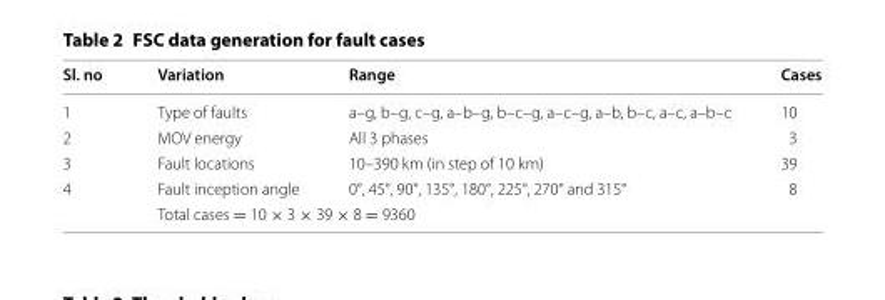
<table><thead><tr><td>Sl. no</td><td>Variation</td><td>Range</td><td>Cases</td></tr></thead><tbody><tr><td>1</td><td>Type of faults</td><td>a–g, b–g, c–g, a–b–g, b–c–g, a–c–g, a–b, b–c, a–c, a–b–c</td><td>10</td></tr><tr><td>2</td><td>MOV energy</td><td>All 3 phases</td><td>3</td></tr><tr><td>3</td><td>Fault locations</td><td>10–390 km (in step of 10 km)</td><td>39</td></tr><tr><td rowspan="2">4</td><td>Fault inception angle</td><td>0°, 45°, 90°, 135°, 180°, 225°, 270° and 315°</td><td>8</td></tr><tr><td colspan="2">Total cases = 10 × 3 × 39 × 8 = 9360</td><td></td></tr></tbody></table>